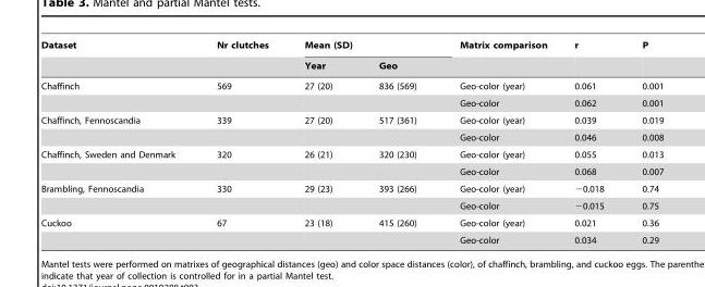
<table><thead><tr><td rowspan="2">Dataset</td><td rowspan="2">Nr clutches</td><td colspan="2">Mean (SD)</td><td rowspan="2">Matrix comparison</td><td rowspan="2">r</td><td rowspan="2">P</td></tr><tr><td>Year</td><td>Geo</td></tr></thead><tbody><tr><td rowspan="2">Chaffinch</td><td>569</td><td>27 (20)</td><td>836 (569)</td><td>Geo-color (year)</td><td>0.061</td><td>0.001</td></tr><tr><td></td><td></td><td></td><td>Geo-color</td><td>0.062</td><td>0.001</td></tr><tr><td rowspan="2">Chaffinch, Fennoscandia</td><td>339</td><td>27 (20)</td><td>517 (361)</td><td>Geo-color (year)</td><td>0.039</td><td>0.019</td></tr><tr><td></td><td></td><td></td><td>Geo-color</td><td>0.046</td><td>0.008</td></tr><tr><td rowspan="2">Chaffinch, Sweden and Denmark</td><td>320</td><td>26 (21)</td><td>320 (230)</td><td>Geo-color (year)</td><td>0.055</td><td>0.013</td></tr><tr><td></td><td></td><td></td><td>Geo-color</td><td>0.068</td><td>0.007</td></tr><tr><td rowspan="2">Brambling, Fennoscandia</td><td>330</td><td>29 (23)</td><td>393 (266)</td><td>Geo-color (year)</td><td>−0.018</td><td>0.74</td></tr><tr><td></td><td></td><td></td><td>Geo-color</td><td>−0.015</td><td>0.75</td></tr><tr><td rowspan="2">Cuckoo</td><td>67</td><td>23 (18)</td><td>415 (260)</td><td>Geo-color (year)</td><td>0.021</td><td>0.36</td></tr><tr><td></td><td></td><td></td><td>Geo-color</td><td>0.034</td><td>0.29</td></tr></tbody></table>